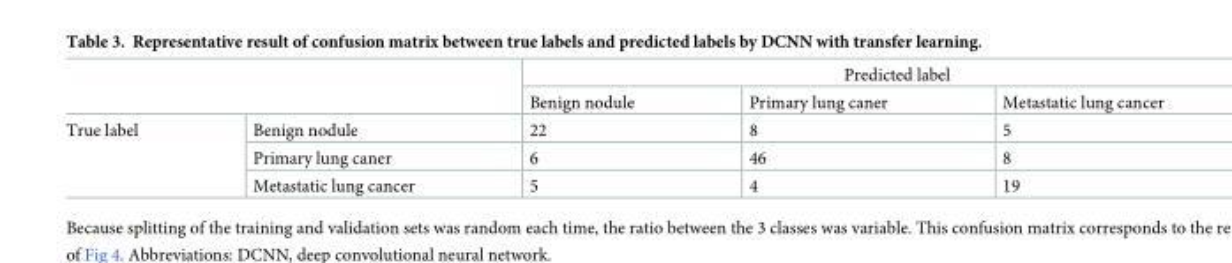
<table><thead><tr><td rowspan="2"></td><td rowspan="2"></td><td colspan="3">Predicted label</td></tr><tr><td>Benign nodule</td><td>Primary lung caner</td><td>Metastatic lung cancer</td></tr></thead><tbody><tr><td rowspan="3">True label</td><td>Benign nodule</td><td>22</td><td>8</td><td>5</td></tr><tr><td>Primary lung caner</td><td>6</td><td>46</td><td>8</td></tr><tr><td>Metastatic lung cancer</td><td>5</td><td>4</td><td>19</td></tr></tbody></table>